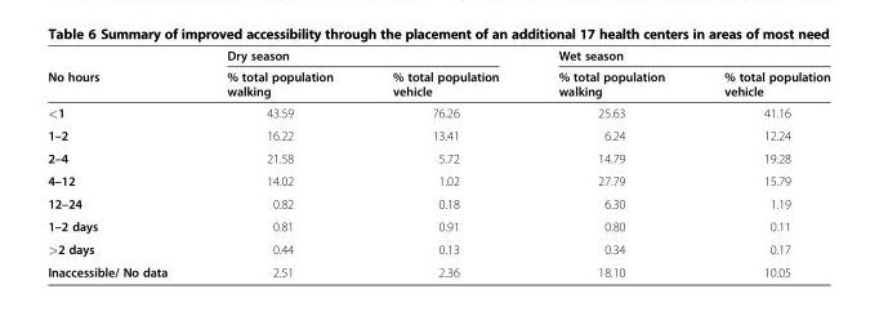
<table><thead><tr><td rowspan="2">No hours</td><td colspan="2">Dry season</td><td colspan="2">Wet season</td></tr><tr><td>% total population walking</td><td>% total population vehicle</td><td>% total population walking</td><td>% total population vehicle</td></tr></thead><tbody><tr><td>&lt;1</td><td>43.59</td><td>76.26</td><td>25.63</td><td>41.16</td></tr><tr><td>1–2</td><td>16.22</td><td>13.41</td><td>6.24</td><td>12.24</td></tr><tr><td>2–4</td><td>21.58</td><td>5.72</td><td>14.79</td><td>19.28</td></tr><tr><td>4–12</td><td>14.02</td><td>1.02</td><td>27.79</td><td>15.79</td></tr><tr><td>12–24</td><td>0.82</td><td>0.18</td><td>6.30</td><td>1.19</td></tr><tr><td>1–2 days</td><td>0.81</td><td>0.91</td><td>0.80</td><td>0.11</td></tr><tr><td>&gt;2 days</td><td>0.44</td><td>0.13</td><td>0.34</td><td>0.17</td></tr><tr><td>Inaccessible/ No data</td><td>2.51</td><td>2.36</td><td>18.10</td><td>10.05</td></tr></tbody></table>